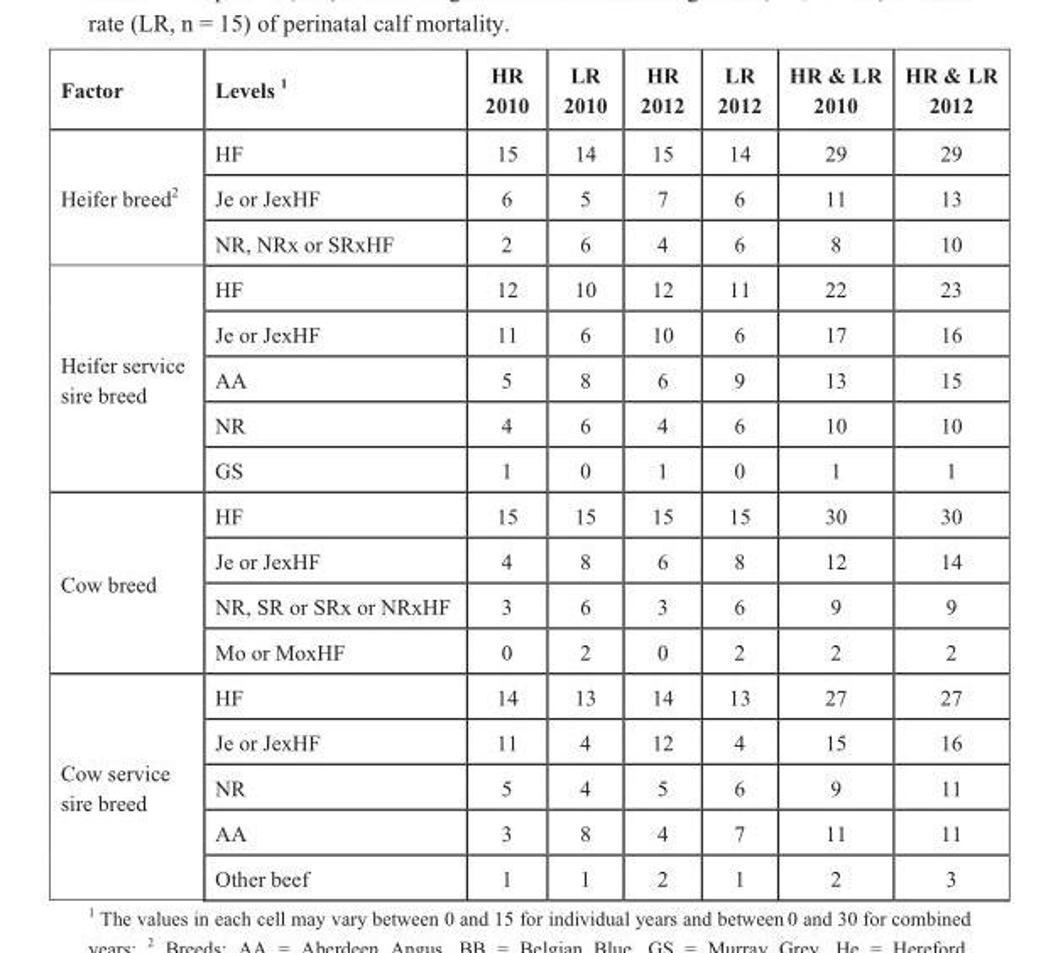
<table><thead><tr><td>Factor</td><td>Levels <sup>1</sup></td><td>HR 2010</td><td>LR 2010</td><td>HR 2012</td><td>LR 2012</td><td>HR &amp; LR 2010</td><td>HR &amp; LR 2012</td></tr></thead><tbody><tr><td rowspan="3">Heifer breed<sup>2</sup></td><td>HF</td><td>15</td><td>14</td><td>15</td><td>14</td><td>29</td><td>29</td></tr><tr><td>Je or JexHF</td><td>6</td><td>5</td><td>7</td><td>6</td><td>11</td><td>13</td></tr><tr><td>NR, NRx or SRxHF</td><td>2</td><td>6</td><td>4</td><td>6</td><td>8</td><td>10</td></tr><tr><td rowspan="5">Heifer service sire breed</td><td>HF</td><td>12</td><td>10</td><td>12</td><td>11</td><td>22</td><td>23</td></tr><tr><td>Je or JexHF</td><td>11</td><td>6</td><td>10</td><td>6</td><td>17</td><td>16</td></tr><tr><td>AA</td><td>5</td><td>8</td><td>6</td><td>9</td><td>13</td><td>15</td></tr><tr><td>NR</td><td>4</td><td>6</td><td>4</td><td>6</td><td>10</td><td>10</td></tr><tr><td>GS</td><td>1</td><td>0</td><td>1</td><td>0</td><td>1</td><td>1</td></tr><tr><td rowspan="4">Cow breed</td><td>HF</td><td>15</td><td>15</td><td>15</td><td>15</td><td>30</td><td>30</td></tr><tr><td>Je or JexHF</td><td>4</td><td>8</td><td>6</td><td>8</td><td>12</td><td>14</td></tr><tr><td>NR, SR or SRx or NRxHF</td><td>3</td><td>6</td><td>3</td><td>6</td><td>9</td><td>9</td></tr><tr><td>Mo or MoxHF</td><td>0</td><td>2</td><td>0</td><td>2</td><td>2</td><td>2</td></tr><tr><td rowspan="5">Cow service sire breed</td><td>HF</td><td>14</td><td>13</td><td>14</td><td>13</td><td>27</td><td>27</td></tr><tr><td>Je or JexHF</td><td>11</td><td>4</td><td>12</td><td>4</td><td>15</td><td>16</td></tr><tr><td>NR</td><td>5</td><td>4</td><td>5</td><td>6</td><td>9</td><td>11</td></tr><tr><td>AA</td><td>3</td><td>8</td><td>4</td><td>7</td><td>11</td><td>11</td></tr><tr><td>Other beef</td><td>1</td><td>1</td><td>2</td><td>1</td><td>2</td><td>3</td></tr></tbody></table>